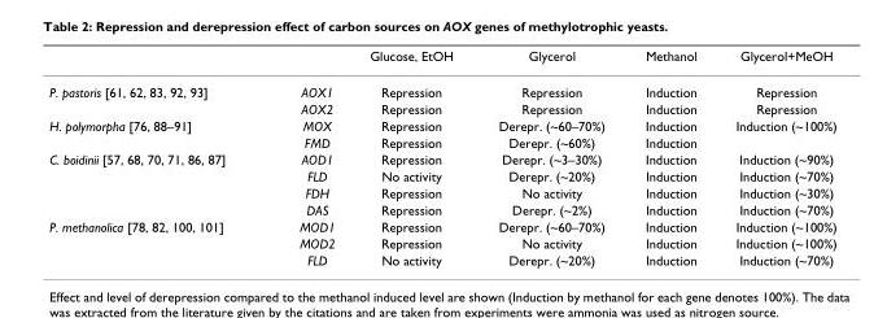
<table><thead><tr><td></td><td></td><td>Glucose, EtOH</td><td>Glycerol</td><td>Methanol</td><td>Glycerol+MeOH</td></tr></thead><tbody><tr><td rowspan="2">P. pastoris [61, 62, 83, 92, 93]</td><td>AOX1</td><td>Repression</td><td>Repression</td><td>Induction</td><td>Repression</td></tr><tr><td>AOX2</td><td>Repression</td><td>Repression</td><td>Induction</td><td>Repression</td></tr><tr><td rowspan="2">H. polymorpha [76, 88–91]</td><td>MOX</td><td>Repression</td><td>Derepr. (~60–70%)</td><td>Induction</td><td>Induction (~100%)</td></tr><tr><td>FMD</td><td>Repression</td><td>Derepr. (~60%)</td><td>Induction</td><td></td></tr><tr><td rowspan="4">C. boidinii [57, 68, 70, 71, 86, 87]</td><td>AOD1</td><td>Repression</td><td>Derepr. (~3–30%)</td><td>Induction</td><td>Induction (~90%)</td></tr><tr><td>FLD</td><td>No activity</td><td>Derepr. (~20%)</td><td>Induction</td><td>Induction (~70%)</td></tr><tr><td>FDH</td><td>Repression</td><td>No activity</td><td>Induction</td><td>Induction (~30%)</td></tr><tr><td>DAS</td><td>Repression</td><td>Derepr. (~2%)</td><td>Induction</td><td>Induction (~70%)</td></tr><tr><td rowspan="3">P. methanolica [78, 82, 100, 101]</td><td>MOD1</td><td>Repression</td><td>Derepr. (~60–70%)</td><td>Induction</td><td>Induction (~100%)</td></tr><tr><td>MOD2</td><td>Repression</td><td>No activity</td><td>Induction</td><td>Induction (~100%)</td></tr><tr><td>FLD</td><td>No activity</td><td>Derepr. (~20%)</td><td>Induction</td><td>Induction (~70%)</td></tr></tbody></table>